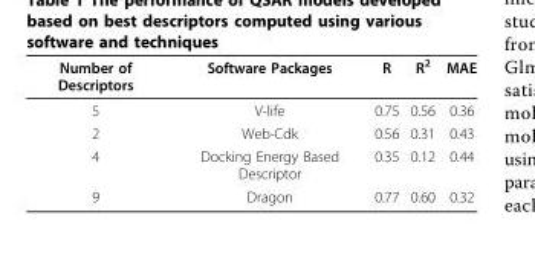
<table><thead><tr><td>Number of Descriptors</td><td>Software Packages</td><td>R</td><td>R<sup>2</sup></td><td>MAE</td></tr></thead><tbody><tr><td>5</td><td>V-life</td><td>0.75</td><td>0.56</td><td>0.36</td></tr><tr><td>2</td><td>Web-Cdk</td><td>0.56</td><td>0.31</td><td>0.43</td></tr><tr><td>4</td><td>Docking Energy Based Descriptor</td><td>0.35</td><td>0.12</td><td>0.44</td></tr><tr><td>9</td><td>Dragon</td><td>0.77</td><td>0.60</td><td>0.32</td></tr></tbody></table>